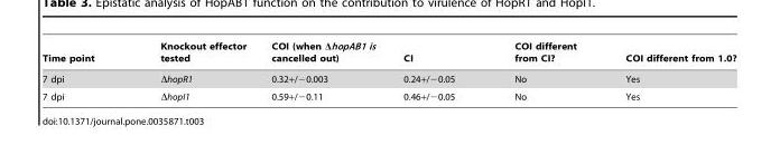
<table><thead><tr><td>Time point</td><td>Knockout effector tested</td><td>COI (when ΔhopAB1 is cancelled out)</td><td>CI</td><td>COI different from CI?</td><td>COI different from 1.0?</td></tr></thead><tbody><tr><td>7 dpi</td><td>ΔhopR1</td><td>0.32+/−0.003</td><td>0.24+/−0.05</td><td>No</td><td>Yes</td></tr><tr><td>7 dpi</td><td>ΔhopI1</td><td>0.59+/−0.11</td><td>0.46+/−0.05</td><td>No</td><td>Yes</td></tr></tbody></table>